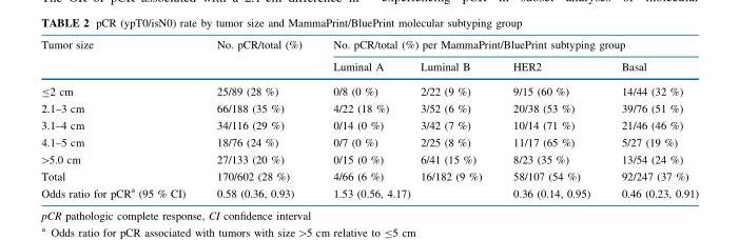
<table><thead><tr><td rowspan="2">Tumor size</td><td rowspan="2">No. pCR/total (%)</td><td colspan="4">No. pCR/total (%) per MammaPrint/BluePrint subtyping group</td></tr><tr><td>Luminal A</td><td>Luminal B</td><td>HER2</td><td>Basal</td></tr></thead><tbody><tr><td>≤2 cm</td><td>25/89 (28 %)</td><td>0/8 (0 %)</td><td>2/22 (9 %)</td><td>9/15 (60 %)</td><td>14/44 (32 %)</td></tr><tr><td>2.1–3 cm</td><td>66/188 (35 %)</td><td>4/22 (18 %)</td><td>3/52 (6 %)</td><td>20/38 (53 %)</td><td>39/76 (51 %)</td></tr><tr><td>3.1–4 cm</td><td>34/116 (29 %)</td><td>0/14 (0 %)</td><td>3/42 (7 %)</td><td>10/14 (71 %)</td><td>21/46 (46 %)</td></tr><tr><td>4.1–5 cm</td><td>18/76 (24 %)</td><td>0/7 (0 %)</td><td>2/25 (8 %)</td><td>11/17 (65 %)</td><td>5/27 (19 %)</td></tr><tr><td>&gt;5.0 cm</td><td>27/133 (20 %)</td><td>0/15 (0 %)</td><td>6/41 (15 %)</td><td>8/23 (35 %)</td><td>13/54 (24 %)</td></tr><tr><td>Total</td><td>170/602 (28 %)</td><td>4/66 (6 %)</td><td>16/182 (9 %)</td><td>58/107 (54 %)</td><td>92/247 (37 %)</td></tr><tr><td>Odds ratio for pCR<sup>a</sup> (95 % CI)</td><td>0.58 (0.36, 0.93)</td><td colspan="2">1.53 (0.56, 4.17)</td><td>0.36 (0.14, 0.95)</td><td>0.46 (0.23, 0.91)</td></tr></tbody></table>